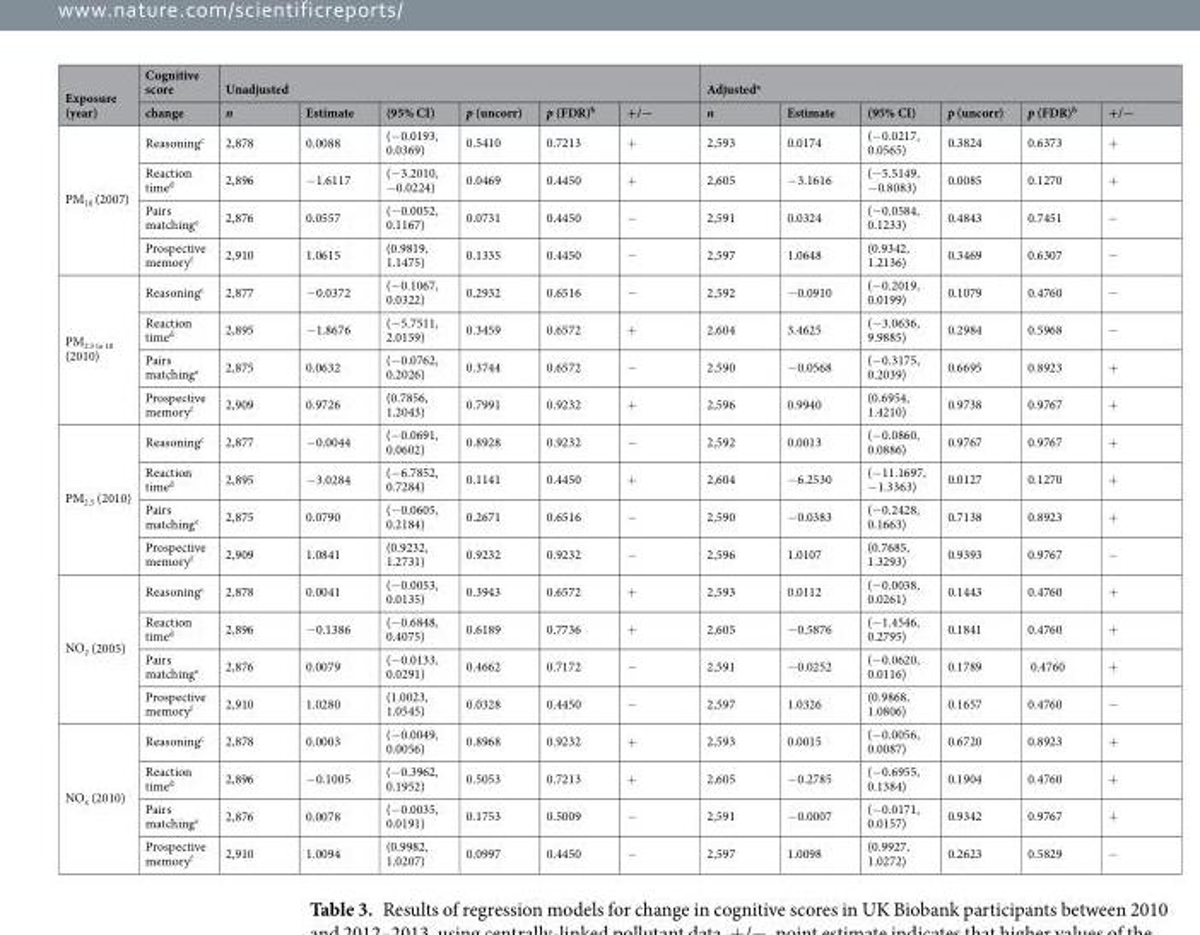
<table><thead><tr><td rowspan="2">Exposure (year)</td><td rowspan="2">Cognitive score change</td><td colspan="6">Unadjusted</td><td colspan="6">Adjusted<sup>a</sup></td></tr><tr><td>n</td><td>Estimate</td><td>(95% CI)</td><td>p (uncorr)</td><td>p (FDR)<sup>b</sup></td><td>+/−</td><td>n</td><td>Estimate</td><td>(95% CI)</td><td>p (uncorr)</td><td>p (FDR)<sup>b</sup></td><td>+/−</td></tr></thead><tbody><tr><td rowspan="4">PM<sub>10</sub> (2007)</td><td>Reasoning<sup>c</sup></td><td>2,878</td><td>0.0088</td><td>(−0.0193, 0.0369)</td><td>0.5410</td><td>0.7213</td><td>+</td><td>2,593</td><td>0.0174</td><td>(−0.0217, 0.0565)</td><td>0.3824</td><td>0.6373</td><td>+</td></tr><tr><td>Reaction time<sup>d</sup></td><td>2,896</td><td>−1.6117</td><td>(−3.2010, −0.0224)</td><td>0.0469</td><td>0.4450</td><td>+</td><td>2,605</td><td>−3.1616</td><td>(−5.5149, −0.8083)</td><td>0.0085</td><td>0.1270</td><td>+</td></tr><tr><td>Pairs matching<sup>e</sup></td><td>2,876</td><td>0.0557</td><td>(−0.0052, 0.1167)</td><td>0.0731</td><td>0.4450</td><td>−</td><td>2,591</td><td>0.0324</td><td>(−0.0584, 0.1233)</td><td>0.4843</td><td>0.7451</td><td>−</td></tr><tr><td>Prospective memory<sup>f</sup></td><td>2,910</td><td>1.0615</td><td>(0.9819, 1.1475)</td><td>0.1335</td><td>0.4450</td><td>−</td><td>2,597</td><td>1.0648</td><td>(0.9342, 1.2136)</td><td>0.3469</td><td>0.6307</td><td>−</td></tr><tr><td rowspan="4">PM<sub>2.5 to 10</sub> (2010)</td><td>Reasoning<sup>c</sup></td><td>2,877</td><td>−0.0372</td><td>(−0.1067, 0.0322)</td><td>0.2932</td><td>0.6516</td><td>−</td><td>2,592</td><td>−0.0910</td><td>(−0.2019, 0.0199)</td><td>0.1079</td><td>0.4760</td><td>−</td></tr><tr><td>Reaction time<sup>d</sup></td><td>2,895</td><td>−1.8676</td><td>(−5.7511, 2.0159)</td><td>0.3459</td><td>0.6572</td><td>+</td><td>2,604</td><td>3.4625</td><td>(−3.0636, 9.9885)</td><td>0.2984</td><td>0.5968</td><td>−</td></tr><tr><td>Pairs matching<sup>e</sup></td><td>2,875</td><td>0.0632</td><td>(−0.0762, 0.2026)</td><td>0.3744</td><td>0.6572</td><td>−</td><td>2,590</td><td>−0.0568</td><td>(−0.3175, 0.2039)</td><td>0.6695</td><td>0.8923</td><td>+</td></tr><tr><td>Prospective memory<sup>f</sup></td><td>2,909</td><td>0.9726</td><td>(0.7856, 1.2043)</td><td>0.7991</td><td>0.9232</td><td>+</td><td>2,596</td><td>0.9940</td><td>(0.6954, 1.4210)</td><td>0.9738</td><td>0.9767</td><td>+</td></tr><tr><td rowspan="4">PM<sub>2.5</sub> (2010)</td><td>Reasoning<sup>c</sup></td><td>2,877</td><td>−0.0044</td><td>(−0.0691, 0.0602)</td><td>0.8928</td><td>0.9232</td><td>−</td><td>2,592</td><td>0.0013</td><td>(−0.0860, 0.0886)</td><td>0.9767</td><td>0.9767</td><td>+</td></tr><tr><td>Reaction time<sup>d</sup></td><td>2,895</td><td>−3.0284</td><td>(−6.7852, 0.7284)</td><td>0.1141</td><td>0.4450</td><td>+</td><td>2,604</td><td>−6.2530</td><td>(−11.1697, −1.3363)</td><td>0.0127</td><td>0.1270</td><td>+</td></tr><tr><td>Pairs matching<sup>e</sup></td><td>2,875</td><td>0.0790</td><td>(−0.0605, 0.2184)</td><td>0.2671</td><td>0.6516</td><td>−</td><td>2,590</td><td>−0.0383</td><td>(−0.2428, 0.1663)</td><td>0.7138</td><td>0.8923</td><td>+</td></tr><tr><td>Prospective memory<sup>f</sup></td><td>2,909</td><td>1.0841</td><td>(0.9232, 1.2731)</td><td>0.9232</td><td>0.9232</td><td>−</td><td>2,596</td><td>1.0107</td><td>(0.7685, 1.3293)</td><td>0.9393</td><td>0.9767</td><td>−</td></tr><tr><td rowspan="4">NO<sub>2</sub> (2005)</td><td>Reasoning<sup>c</sup></td><td>2,878</td><td>0.0041</td><td>(−0.0053, 0.0135)</td><td>0.3943</td><td>0.6572</td><td>+</td><td>2,593</td><td>0.0112</td><td>(−0.0038, 0.0261)</td><td>0.1443</td><td>0.4760</td><td>+</td></tr><tr><td>Reaction time<sup>d</sup></td><td>2,896</td><td>−0.1386</td><td>(−0.6848, 0.4075)</td><td>0.6189</td><td>0.7736</td><td>+</td><td>2,605</td><td>−0.5876</td><td>(−1.4546, 0.2795)</td><td>0.1841</td><td>0.4760</td><td>+</td></tr><tr><td>Pairs matching<sup>e</sup></td><td>2,876</td><td>0.0079</td><td>(−0.0133, 0.0291)</td><td>0.4662</td><td>0.7172</td><td>−</td><td>2,591</td><td>−0.0252</td><td>(−0.0620, 0.0116)</td><td>0.1789</td><td>0.4760</td><td>+</td></tr><tr><td>Prospective memory<sup>f</sup></td><td>2,910</td><td>1.0280</td><td>(1.0023, 1.0545)</td><td>0.0328</td><td>0.4450</td><td>−</td><td>2,597</td><td>1.0326</td><td>(0.9868, 1.0806)</td><td>0.1657</td><td>0.4760</td><td>−</td></tr><tr><td rowspan="4">NO<sub>x</sub> (2010)</td><td>Reasoning<sup>c</sup></td><td>2,878</td><td>0.0003</td><td>(−0.0049, 0.0056)</td><td>0.8968</td><td>0.9232</td><td>+</td><td>2,593</td><td>0.0015</td><td>(−0.0056, 0.0087)</td><td>0.6720</td><td>0.8923</td><td>+</td></tr><tr><td>Reaction time<sup>d</sup></td><td>2,896</td><td>−0.1005</td><td>(−0.3962, 0.1952)</td><td>0.5053</td><td>0.7213</td><td>+</td><td>2,605</td><td>−0.2785</td><td>(−0.6955, 0.1384)</td><td>0.1904</td><td>0.4760</td><td>+</td></tr><tr><td>Pairs matching<sup>e</sup></td><td>2,876</td><td>0.0078</td><td>(−0.0035, 0.0191)</td><td>0.1753</td><td>0.5009</td><td>−</td><td>2,591</td><td>−0.0007</td><td>(−0.0171, 0.0157)</td><td>0.9342</td><td>0.9767</td><td>+</td></tr><tr><td>Prospective memory<sup>f</sup></td><td>2,910</td><td>1.0094</td><td>(0.9982, 1.0207)</td><td>0.0997</td><td>0.4450</td><td>−</td><td>2,597</td><td>1.0098</td><td>(0.9927, 1.0272)</td><td>0.2623</td><td>0.5829</td><td>−</td></tr></tbody></table>